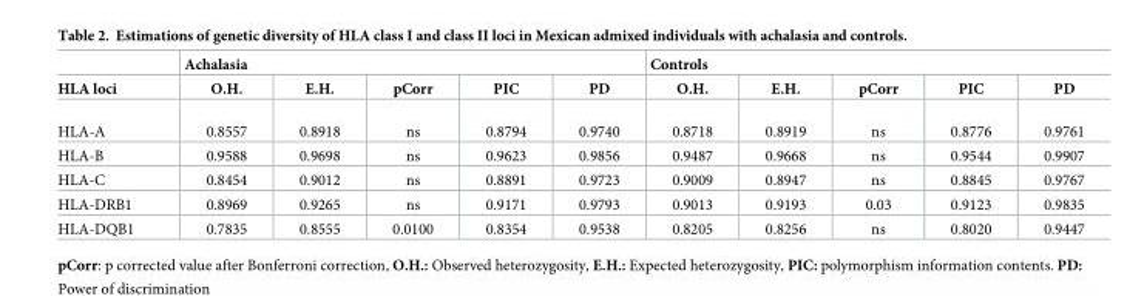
<table><thead><tr><td rowspan="2">HLA loci</td><td colspan="5">Achalasia</td><td colspan="5">Controls</td></tr><tr><td>O.H.</td><td>E.H.</td><td>pCorr</td><td>PIC</td><td>PD</td><td>O.H.</td><td>E.H.</td><td>pCorr</td><td>PIC</td><td>PD</td></tr></thead><tbody><tr><td>HLA-A</td><td>0.8557</td><td>0.8918</td><td>ns</td><td>0.8794</td><td>0.9740</td><td>0.8718</td><td>0.8919</td><td>ns</td><td>0.8776</td><td>0.9761</td></tr><tr><td>HLA-B</td><td>0.9588</td><td>0.9698</td><td>ns</td><td>0.9623</td><td>0.9856</td><td>0.9487</td><td>0.9668</td><td>ns</td><td>0.9544</td><td>0.9907</td></tr><tr><td>HLA-C</td><td>0.8454</td><td>0.9012</td><td>ns</td><td>0.8891</td><td>0.9723</td><td>0.9009</td><td>0.8947</td><td>ns</td><td>0.8845</td><td>0.9767</td></tr><tr><td>HLA-DRB1</td><td>0.8969</td><td>0.9265</td><td>ns</td><td>0.9171</td><td>0.9793</td><td>0.9013</td><td>0.9193</td><td>0.03</td><td>0.9123</td><td>0.9835</td></tr><tr><td>HLA-DQB1</td><td>0.7835</td><td>0.8555</td><td>0.0100</td><td>0.8354</td><td>0.9538</td><td>0.8205</td><td>0.8256</td><td>ns</td><td>0.8020</td><td>0.9447</td></tr></tbody></table>